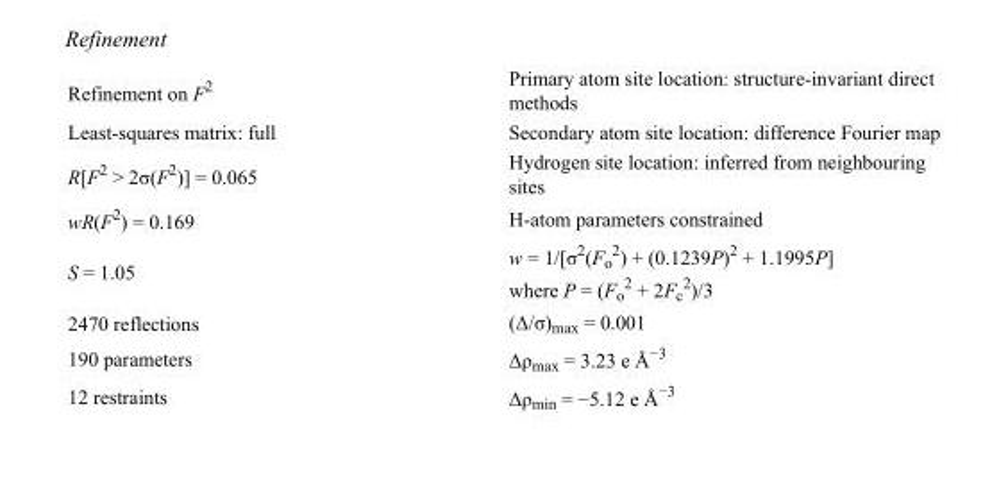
<table><tbody><tr><td>Refinement on F<sup>2</sup></td><td>Primary atom site location: structure-invariant direct methods</td></tr><tr><td>Least-squares matrix: full</td><td>Secondary atom site location: difference Fourier map</td></tr><tr><td>R[F<sup>2</sup> &gt; 2σ(F<sup>2</sup>)] = 0.065</td><td>Hydrogen site location: inferred from neighbouring sites</td></tr><tr><td>wR(F<sup>2</sup>) = 0.169</td><td>H-atom parameters constrained</td></tr><tr><td>S = 1.05</td><td>w = 1/[σ<sup>2</sup>(F<sub>o</sub> <sup>2</sup>) + (0.1239P)<sup>2</sup> + 1.1995P] where P = (F<sub>o</sub> <sup>2</sup> + 2F<sub>c</sub> <sup>2</sup>)/3</td></tr><tr><td>2470 reflections</td><td>(Δ/σ)<sub>max</sub> = 0.001</td></tr><tr><td>190 parameters</td><td>Δρ<sub>max</sub> = 3.23 e Å<sup>−3</sup></td></tr><tr><td>12 restraints</td><td>Δρ<sub>min</sub> = −5.12 e Å<sup>−3</sup></td></tr></tbody></table>